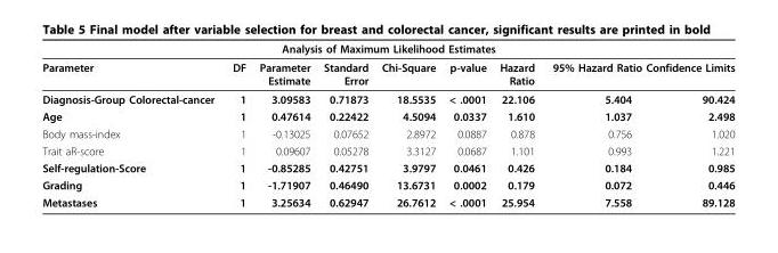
<table><thead><tr><td colspan="9">Analysis of Maximum Likelihood Estimates</td></tr><tr><td rowspan="2">Parameter Diagnosis-Group Colorectal-cancer</td><td rowspan="2">DF 1</td><td rowspan="2">Parameter Estimate 3.09583</td><td rowspan="2">Standard Error 0.71873</td><td rowspan="2">Chi-Square 18.5535</td><td rowspan="2">p-value &lt; .0001</td><td rowspan="2">Hazard Ratio 22.106</td><td colspan="2">95% Hazard Ratio Confidence Limits</td></tr><tr><td>5.404</td><td>90.424</td></tr></thead><tbody><tr><td>Age</td><td>1</td><td>0.47614</td><td>0.22422</td><td>4.5094</td><td>0.0337</td><td>1.610</td><td>1.037</td><td>2.498</td></tr><tr><td>Body mass-index</td><td>1</td><td>-0.13025</td><td>0.07652</td><td>2.8972</td><td>0.0887</td><td>0.878</td><td>0.756</td><td>1.020</td></tr><tr><td>Trait aR-score</td><td>1</td><td>0.09607</td><td>0.05278</td><td>3.3127</td><td>0.0687</td><td>1.101</td><td>0.993</td><td>1.221</td></tr><tr><td>Self-regulation-Score</td><td>1</td><td>-0.85285</td><td>0.42751</td><td>3.9797</td><td>0.0461</td><td>0.426</td><td>0.184</td><td>0.985</td></tr><tr><td>Grading</td><td>1</td><td>-1.71907</td><td>0.46490</td><td>13.6731</td><td>0.0002</td><td>0.179</td><td>0.072</td><td>0.446</td></tr><tr><td>Metastases</td><td>1</td><td>3.25634</td><td>0.62947</td><td>26.7612</td><td>&lt; .0001</td><td>25.954</td><td>7.558</td><td>89.128</td></tr></tbody></table>